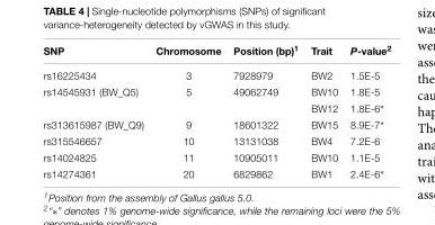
<table><thead><tr><td>SNP</td><td>Chromosome</td><td>Position (bp)<sup>1</sup></td><td>Trait</td><td>P-value<sup>2</sup></td></tr></thead><tbody><tr><td>rs16225434</td><td>3</td><td>7928979</td><td>BW2</td><td>1.5E-5</td></tr><tr><td rowspan="2">rs14545931 (BW_Q5)</td><td>5</td><td>49062749</td><td>BW10</td><td>1.8E-5</td></tr><tr><td></td><td></td><td>BW12</td><td>1.8E-6∗</td></tr><tr><td>rs313615987 (BW_Q9)</td><td>9</td><td>18601322</td><td>BW15</td><td>8.9E-7∗</td></tr><tr><td>rs315546657</td><td>10</td><td>13131038</td><td>BW4</td><td>7.2E-6</td></tr><tr><td>rs14024825</td><td>11</td><td>10905011</td><td>BW10</td><td>1.1E-5</td></tr><tr><td>rs14274361</td><td>20</td><td>6829862</td><td>BW1</td><td>2.4E-6∗</td></tr></tbody></table>